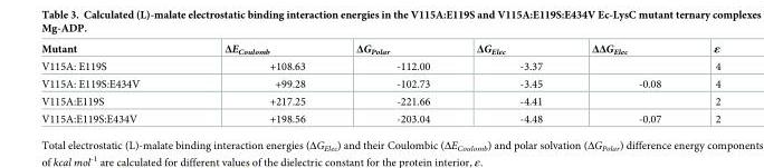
<table><thead><tr><td>Mutant</td><td>ΔE<sub>Coulomb</sub></td><td>ΔG<sub>Polar</sub></td><td>ΔG<sub>Elec</sub></td><td>ΔΔG<sub>Elec</sub></td><td>ε</td></tr></thead><tbody><tr><td>V115A: E119S</td><td>+108.63</td><td>-112.00</td><td>-3.37</td><td></td><td>4</td></tr><tr><td>V115A: E119S:E434V</td><td>+99.28</td><td>-102.73</td><td>-3.45</td><td>-0.08</td><td>4</td></tr><tr><td>V115A:E119S</td><td>+217.25</td><td>-221.66</td><td>-4.41</td><td></td><td>2</td></tr><tr><td>V115A:E119S:E434V</td><td>+198.56</td><td>-203.04</td><td>-4.48</td><td>-0.07</td><td>2</td></tr></tbody></table>